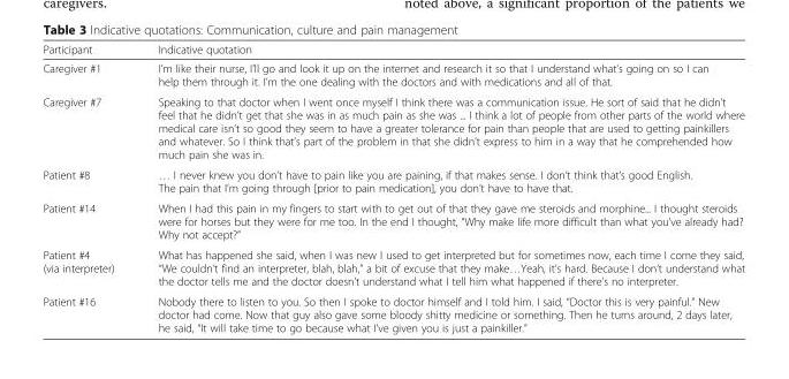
<table><thead><tr><td>Participant</td><td>Indicative quotation</td></tr></thead><tbody><tr><td>Caregiver #1</td><td>I’m like their nurse, I’ll go and look it up on the internet and research it so that I understand what’s going on so I can help them through it. I’m the one dealing with the doctors and with medications and all of that.</td></tr><tr><td>Caregiver #7</td><td>Speaking to that doctor when I went once myself I think there was a communication issue. He sort of said that he didn’t feel that he didn’t get that she was in as much pain as she was ... I think a lot of people from other parts of the world where medical care isn’t so good they seem to have a greater tolerance for pain than people that are used to getting painkillers and whatever. So I think that’s part of the problem in that she didn’t express to him in a way that he comprehended how much pain she was in.</td></tr><tr><td>Patient #8</td><td>… I never knew you don’t have to pain like you are paining, if that makes sense. I don’t think that’s good English. The pain that I’m going through [prior to pain medication], you don’t have to have that.</td></tr><tr><td>Patient #14</td><td>When I had this pain in my fingers to start with to get out of that they gave me steroids and morphine... I thought steroids were for horses but they were for me too. In the end I thought, “Why make life more difficult than what you’ve already had? Why not accept?”</td></tr><tr><td>Patient #4 (via interpreter)</td><td>What has happened she said, when I was new I used to get interpreted but for sometimes now, each time I come they said, “We couldn’t find an interpreter, blah, blah,” a bit of excuse that they make…Yeah, it’s hard. Because I don’t understand what the doctor tells me and the doctor doesn’t understand what I tell him what happened if there’s no interpreter.</td></tr><tr><td>Patient #16</td><td>Nobody there to listen to you. So then I spoke to doctor himself and I told him. I said, “Doctor this is very painful.” New doctor had come. Now that guy also gave some bloody shitty medicine or something. Then he turns around, 2 days later, he said, “It will take time to go because what I’ve given you is just a painkiller.”</td></tr></tbody></table>